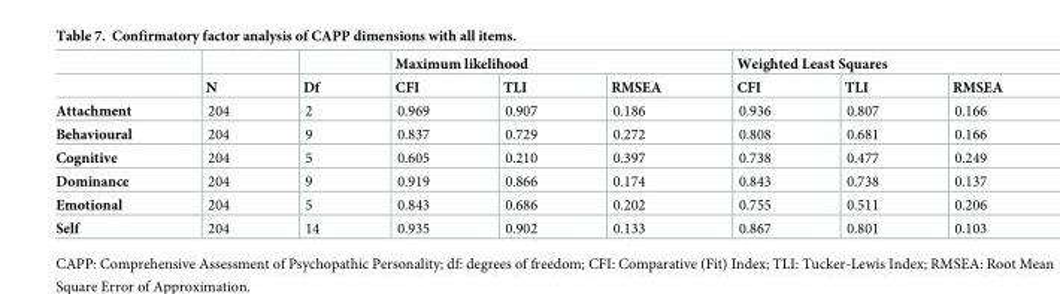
<table><thead><tr><td rowspan="2"></td><td rowspan="2">N</td><td rowspan="2">Df</td><td colspan="3">Maximum likelihood</td><td colspan="3">Weighted Least Squares</td></tr><tr><td>CFI</td><td>TLI</td><td>RMSEA</td><td>CFI</td><td>TLI</td><td>RMSEA</td></tr></thead><tbody><tr><td>Attachment</td><td>204</td><td>2</td><td>0.969</td><td>0.907</td><td>0.186</td><td>0.936</td><td>0.807</td><td>0.166</td></tr><tr><td>Behavioural</td><td>204</td><td>9</td><td>0.837</td><td>0.729</td><td>0.272</td><td>0.808</td><td>0.681</td><td>0.166</td></tr><tr><td>Cognitive</td><td>204</td><td>5</td><td>0.605</td><td>0.210</td><td>0.397</td><td>0.738</td><td>0.477</td><td>0.249</td></tr><tr><td>Dominance</td><td>204</td><td>9</td><td>0.919</td><td>0.866</td><td>0.174</td><td>0.843</td><td>0.738</td><td>0.137</td></tr><tr><td>Emotional</td><td>204</td><td>5</td><td>0.843</td><td>0.686</td><td>0.202</td><td>0.755</td><td>0.511</td><td>0.206</td></tr><tr><td>Self</td><td>204</td><td>14</td><td>0.935</td><td>0.902</td><td>0.133</td><td>0.867</td><td>0.801</td><td>0.103</td></tr></tbody></table>